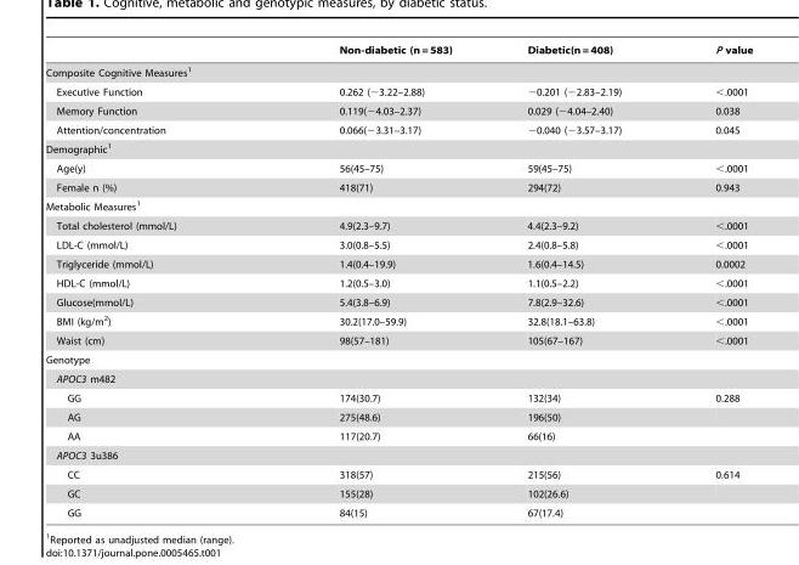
<table><thead><tr><td></td><td>Non-diabetic (n = 583)</td><td>Diabetic(n = 408)</td><td>P value</td></tr></thead><tbody><tr><td colspan="4">Composite Cognitive Measures<sup>1</sup></td></tr><tr><td>Executive Function</td><td>0.262 (−3.22–2.88)</td><td>−0.201 (−2.83–2.19)</td><td>&lt;.0001</td></tr><tr><td>Memory Function</td><td>0.119(−4.03–2.37)</td><td>0.029 (−4.04–2.40)</td><td>0.038</td></tr><tr><td>Attention/concentration</td><td>0.066(−3.31–3.17)</td><td>−0.040 (−3.57–3.17)</td><td>0.045</td></tr><tr><td colspan="4">Demographic<sup>1</sup></td></tr><tr><td>Age(y)</td><td>56(45–75)</td><td>59(45–75)</td><td>&lt;.0001</td></tr><tr><td>Female n (%)</td><td>418(71)</td><td>294(72)</td><td>0.943</td></tr><tr><td colspan="4">Metabolic Measures<sup>1</sup></td></tr><tr><td>Total cholesterol (mmol/L)</td><td>4.9(2.3–9.7)</td><td>4.4(2.3–9.2)</td><td>&lt;.0001</td></tr><tr><td>LDL-C (mmol/L)</td><td>3.0(0.8–5.5)</td><td>2.4(0.8–5.8)</td><td>&lt;.0001</td></tr><tr><td>Triglyceride (mmol/L)</td><td>1.4(0.4–19.9)</td><td>1.6(0.4–14.5)</td><td>0.0002</td></tr><tr><td>HDL-C (mmol/L)</td><td>1.2(0.5–3.0)</td><td>1.1(0.5–2.2)</td><td>&lt;.0001</td></tr><tr><td>Glucose(mmol/L)</td><td>5.4(3.8–6.9)</td><td>7.8(2.9–32.6)</td><td>&lt;.0001</td></tr><tr><td>BMI (kg/m<sup>2</sup>)</td><td>30.2(17.0–59.9)</td><td>32.8(18.1–63.8)</td><td>&lt;.0001</td></tr><tr><td>Waist (cm)</td><td>98(57–181)</td><td>105(67–167)</td><td>&lt;.0001</td></tr><tr><td colspan="4">Genotype</td></tr><tr><td colspan="4">APOC3 m482</td></tr><tr><td>GG</td><td>174(30.7)</td><td>132(34)</td><td>0.288</td></tr><tr><td>AG</td><td>275(48.6)</td><td>196(50)</td><td></td></tr><tr><td>AA</td><td>117(20.7)</td><td>66(16)</td><td></td></tr><tr><td colspan="4">APOC3 3u386</td></tr><tr><td>CC</td><td>318(57)</td><td>215(56)</td><td>0.614</td></tr><tr><td>GC</td><td>155(28)</td><td>102(26.6)</td><td></td></tr><tr><td>GG</td><td>84(15)</td><td>67(17.4)</td><td></td></tr></tbody></table>